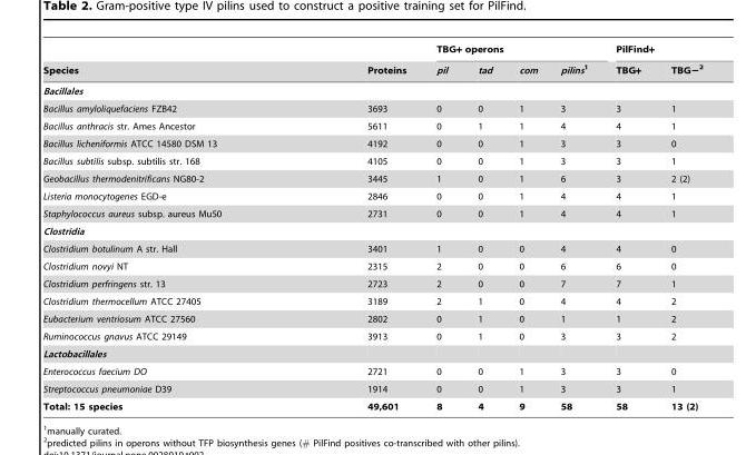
<table><thead><tr><td rowspan="2">Species</td><td rowspan="2">Proteins</td><td colspan="4">TBG+ operons</td><td colspan="2">PilFind+</td></tr><tr><td>pil</td><td>tad</td><td>com</td><td>pilins1</td><td>TBG+</td><td>TBG−2</td></tr></thead><tbody><tr><td colspan="8">Bacillales</td></tr><tr><td>Bacillus amyloliquefaciens FZB42</td><td>3693</td><td>0</td><td>0</td><td>1</td><td>3</td><td>3</td><td>1</td></tr><tr><td>Bacillus anthracis str. Ames Ancestor</td><td>5611</td><td>0</td><td>1</td><td>1</td><td>4</td><td>4</td><td>1</td></tr><tr><td>Bacillus licheniformis ATCC 14580 DSM 13</td><td>4192</td><td>0</td><td>0</td><td>1</td><td>3</td><td>3</td><td>0</td></tr><tr><td>Bacillus subtilis subsp. subtilis str. 168</td><td>4105</td><td>0</td><td>0</td><td>1</td><td>3</td><td>3</td><td>1</td></tr><tr><td>Geobacillus thermodenitrificans NG80-2</td><td>3445</td><td>1</td><td>0</td><td>1</td><td>6</td><td>3</td><td>2 (2)</td></tr><tr><td>Listeria monocytogenes EGD-e</td><td>2846</td><td>0</td><td>0</td><td>1</td><td>4</td><td>4</td><td>1</td></tr><tr><td>Staphylococcus aureus subsp. aureus Mu50</td><td>2731</td><td>0</td><td>0</td><td>1</td><td>4</td><td>4</td><td>1</td></tr><tr><td colspan="8">Clostridia</td></tr><tr><td>Clostridium botulinum A str. Hall</td><td>3401</td><td>1</td><td>0</td><td>0</td><td>4</td><td>4</td><td>0</td></tr><tr><td>Clostridium novyi NT</td><td>2315</td><td>2</td><td>0</td><td>0</td><td>6</td><td>6</td><td>0</td></tr><tr><td>Clostridium perfringens str. 13</td><td>2723</td><td>2</td><td>0</td><td>0</td><td>7</td><td>7</td><td>1</td></tr><tr><td>Clostridium thermocellum ATCC 27405</td><td>3189</td><td>2</td><td>1</td><td>0</td><td>4</td><td>4</td><td>2</td></tr><tr><td>Eubacterium ventriosum ATCC 27560</td><td>2802</td><td>0</td><td>1</td><td>0</td><td>1</td><td>1</td><td>2</td></tr><tr><td>Ruminococcus gnavus ATCC 29149</td><td>3913</td><td>0</td><td>1</td><td>0</td><td>3</td><td>3</td><td>2</td></tr><tr><td colspan="8">Lactobacillales</td></tr><tr><td>Enterococcus faecium DO</td><td>2721</td><td>0</td><td>0</td><td>1</td><td>3</td><td>3</td><td>0</td></tr><tr><td>Streptococcus pneumoniae D39</td><td>1914</td><td>0</td><td>0</td><td>1</td><td>3</td><td>3</td><td>1</td></tr><tr><td>Total: 15 species</td><td>49,601</td><td>8</td><td>4</td><td>9</td><td>58</td><td>58</td><td>13 (2)</td></tr></tbody></table>